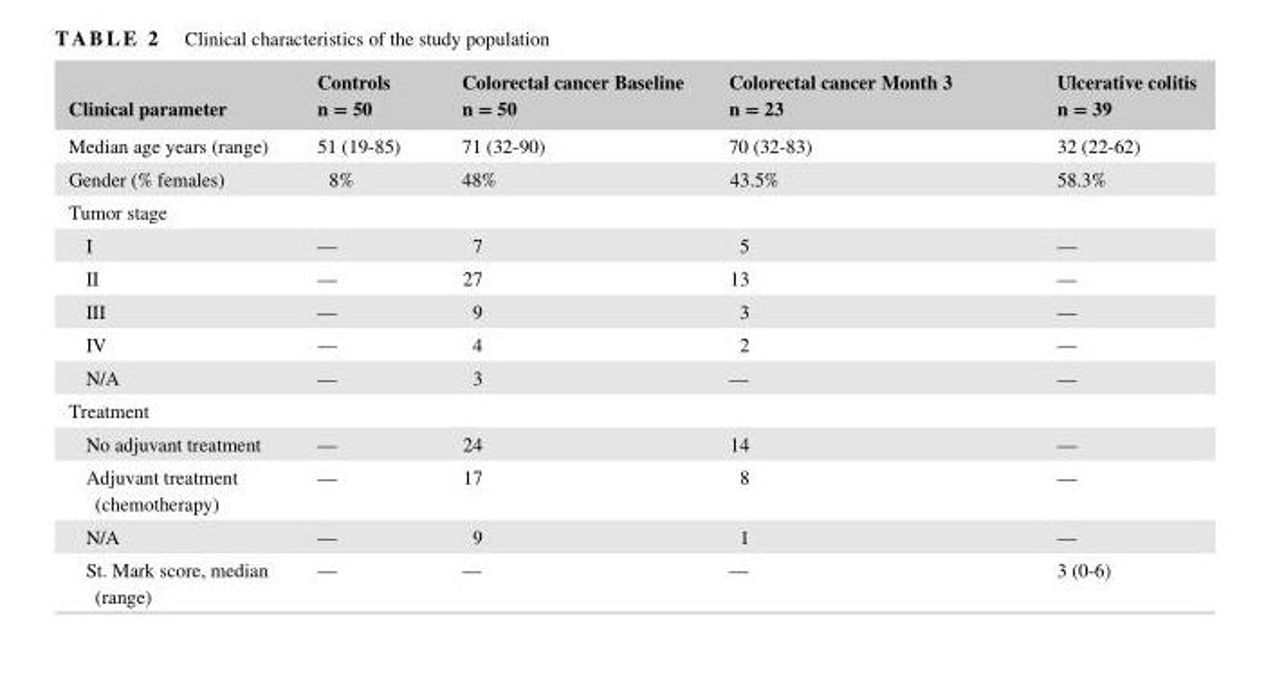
<table><thead><tr><td>Clinical parameter</td><td>Controls n = 50</td><td>Colorectal cancer Baseline n = 50</td><td>Colorectal cancer Month 3 n = 23</td><td>Ulcerative colitis n = 39</td></tr></thead><tbody><tr><td>Median age years (range)</td><td>51 (19- 85)</td><td>71 (32- 90)</td><td>70 (32- 83)</td><td>32 (22- 62)</td></tr><tr><td>Gender (% females)</td><td>8%</td><td>48%</td><td>43.5%</td><td>58.3%</td></tr><tr><td colspan="5">Tumor stage</td></tr><tr><td>I</td><td>—</td><td>7</td><td>5</td><td>—</td></tr><tr><td>II</td><td>—</td><td>27</td><td>13</td><td>—</td></tr><tr><td>III</td><td>—</td><td>9</td><td>3</td><td>—</td></tr><tr><td>IV</td><td>—</td><td>4</td><td>2</td><td>—</td></tr><tr><td>N/A</td><td>—</td><td>3</td><td>—</td><td>—</td></tr><tr><td colspan="5">Treatment</td></tr><tr><td>No adjuvant treatment</td><td>—</td><td>24</td><td>14</td><td>—</td></tr><tr><td>Adjuvant treatment (chemotherapy)</td><td>—</td><td>17</td><td>8</td><td>—</td></tr><tr><td>N/A</td><td>—</td><td>9</td><td>1</td><td>—</td></tr><tr><td>St. Mark score, median (range)</td><td>—</td><td>—</td><td>—</td><td>3 (0- 6)</td></tr></tbody></table>